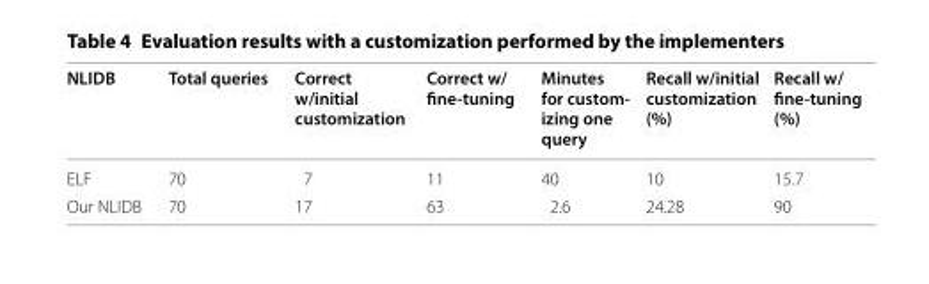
<table><thead><tr><td>NLIDB</td><td>Total queries</td><td>Correct w/initial customization</td><td>Correct w/ fine-tuning</td><td>Minutes for custom- izing one query</td><td>Recall w/initial customization (%)</td><td>Recall w/ fine-tuning (%)</td></tr></thead><tbody><tr><td>ELF</td><td>70</td><td>7</td><td>11</td><td>40</td><td>10</td><td>15.7</td></tr><tr><td>Our NLIDB</td><td>70</td><td>17</td><td>63</td><td>2.6</td><td>24.28</td><td>90</td></tr></tbody></table>